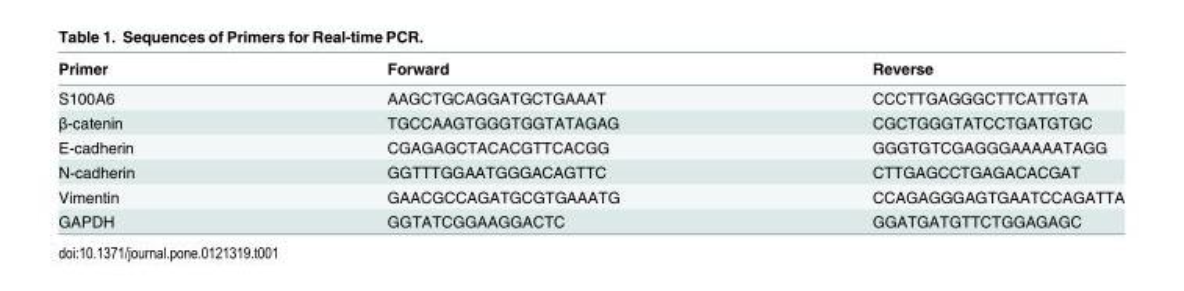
<table><thead><tr><td>Primer</td><td>Forward</td><td>Reverse</td></tr></thead><tbody><tr><td>S100A6</td><td>AAGCTGCAGGATGCTGAAAT</td><td>CCCTTGAGGGCTTCATTGTA</td></tr><tr><td>β-catenin</td><td>TGCCAAGTGGGTGGTATAGAG</td><td>CGCTGGGTATCCTGATGTGC</td></tr><tr><td>E-cadherin</td><td>CGAGAGCTACACGTTCACGG</td><td>GGGTGTCGAGGGAAAAATAGG</td></tr><tr><td>N-cadherin</td><td>GGTTTGGAATGGGACAGTTC</td><td>CTTGAGCCTGAGACACGAT</td></tr><tr><td>Vimentin</td><td>GAACGCCAGATGCGTGAAATG</td><td>CCAGAGGGAGTGAATCCAGATTA</td></tr><tr><td>GAPDH</td><td>GGTATCGGAAGGACTC</td><td>GGATGATGTTCTGGAGAGC</td></tr></tbody></table>